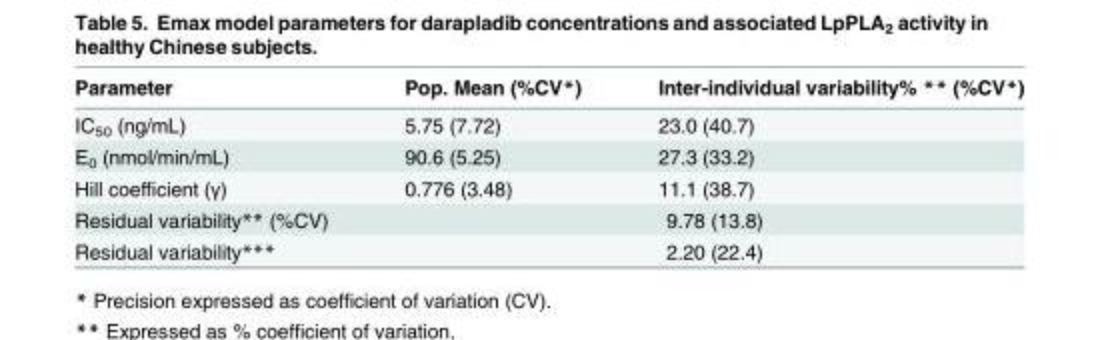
<table><thead><tr><td>Parameter</td><td>Pop. Mean (%CV*)</td><td>Inter-individual variability% ** (%CV*)</td></tr></thead><tbody><tr><td>IC<sub>50</sub> (ng/mL)</td><td>5.75 (7.72)</td><td>23.0 (40.7)</td></tr><tr><td>E<sub>0</sub> (nmol/min/mL)</td><td>90.6 (5.25)</td><td>27.3 (33.2)</td></tr><tr><td>Hill coefficient (γ)</td><td>0.776 (3.48)</td><td>11.1 (38.7)</td></tr><tr><td>Residual variability** (%CV)</td><td colspan="2">9.78 (13.8)</td></tr><tr><td>Residual variability***</td><td colspan="2">2.20 (22.4)</td></tr></tbody></table>